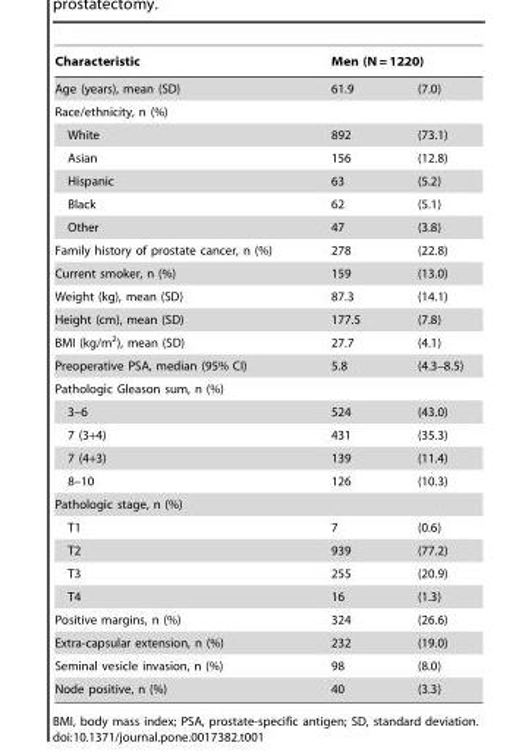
<table><thead><tr><td rowspan="2">Characteristic Age (years), mean (SD)</td><td colspan="2">Men (N = 1220)</td></tr><tr><td>61.9</td><td>(7.0)</td></tr></thead><tbody><tr><td colspan="3">Race/ethnicity, n (%)</td></tr><tr><td>White</td><td>892</td><td>(73.1)</td></tr><tr><td>Asian</td><td>156</td><td>(12.8)</td></tr><tr><td>Hispanic</td><td>63</td><td>(5.2)</td></tr><tr><td>Black</td><td>62</td><td>(5.1)</td></tr><tr><td>Other</td><td>47</td><td>(3.8)</td></tr><tr><td>Family history of prostate cancer, n (%)</td><td>278</td><td>(22.8)</td></tr><tr><td>Current smoker, n (%)</td><td>159</td><td>(13.0)</td></tr><tr><td>Weight (kg), mean (SD)</td><td>87.3</td><td>(14.1)</td></tr><tr><td>Height (cm), mean (SD)</td><td>177.5</td><td>(7.8)</td></tr><tr><td>BMI (kg/m<sup>2</sup>), mean (SD)</td><td>27.7</td><td>(4.1)</td></tr><tr><td>Preoperative PSA, median (95% CI)</td><td>5.8</td><td>(4.3–8.5)</td></tr><tr><td colspan="3">Pathologic Gleason sum, n (%)</td></tr><tr><td>3–6</td><td>524</td><td>(43.0)</td></tr><tr><td>7 (3+4)</td><td>431</td><td>(35.3)</td></tr><tr><td>7 (4+3)</td><td>139</td><td>(11.4)</td></tr><tr><td>8–10</td><td>126</td><td>(10.3)</td></tr><tr><td colspan="3">Pathologic stage, n (%)</td></tr><tr><td>T1</td><td>7</td><td>(0.6)</td></tr><tr><td>T2</td><td>939</td><td>(77.2)</td></tr><tr><td>T3</td><td>255</td><td>(20.9)</td></tr><tr><td>T4</td><td>16</td><td>(1.3)</td></tr><tr><td>Positive margins, n (%)</td><td>324</td><td>(26.6)</td></tr><tr><td>Extra-capsular extension, n (%)</td><td>232</td><td>(19.0)</td></tr><tr><td>Seminal vesicle invasion, n (%)</td><td>98</td><td>(8.0)</td></tr><tr><td>Node positive, n (%)</td><td>40</td><td>(3.3)</td></tr></tbody></table>